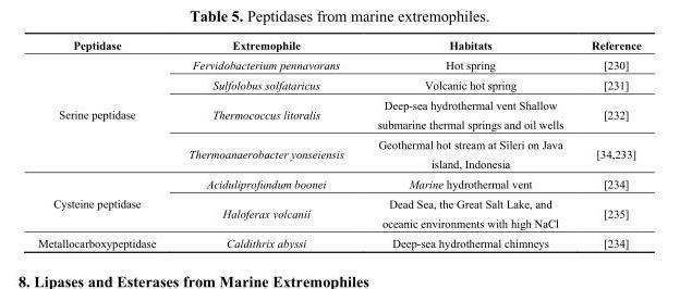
<table><thead><tr><td>Peptidase</td><td>Extremophile</td><td>Habitats</td><td>Reference</td></tr></thead><tbody><tr><td rowspan="4">Serine peptidase</td><td>Fervidobacterium pennavorans</td><td>Hot spring</td><td>[230]</td></tr><tr><td>Sulfolobus solfataricus</td><td>Volcanic hot spring</td><td>[231]</td></tr><tr><td>Thermococcus litoralis</td><td>Deep-sea hydrothermal vent Shallow submarine thermal springs and oil wells</td><td>[232]</td></tr><tr><td>Thermoanaerobacter yonseiensis</td><td>Geothermal hot stream at Sileri on Java island, Indonesia</td><td>[34,233]</td></tr><tr><td rowspan="2">Cysteine peptidase</td><td>Aciduliprofundum boonei</td><td>Marine hydrothermal vent</td><td>[234]</td></tr><tr><td>Haloferax volcanii</td><td>Dead Sea, the Great Salt Lake, and oceanic environments with high NaCl</td><td>[235]</td></tr><tr><td>Metallocarboxypeptidase</td><td>Caldithrix abyssi</td><td>Deep-sea hydrothermal chimneys</td><td>[234]</td></tr></tbody></table>